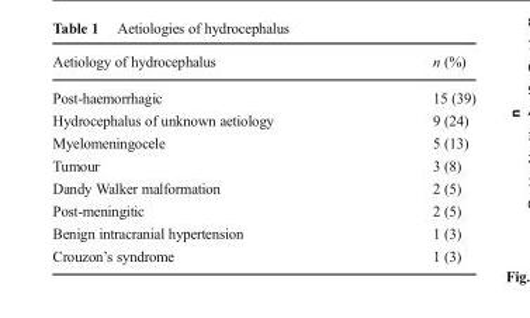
<table><thead><tr><td>Aetiology of hydrocephalus</td><td>n (%)</td></tr></thead><tbody><tr><td>Post-haemorrhagic</td><td>15 (39)</td></tr><tr><td>Hydrocephalus of unknown aetiology</td><td>9 (24)</td></tr><tr><td>Myelomeningocele</td><td>5 (13)</td></tr><tr><td>Tumour</td><td>3 (8)</td></tr><tr><td>Dandy Walker malformation</td><td>2 (5)</td></tr><tr><td>Post-meningitic</td><td>2 (5)</td></tr><tr><td>Benign intracranial hypertension</td><td>1 (3)</td></tr><tr><td>Crouzon’s syndrome</td><td>1 (3)</td></tr></tbody></table>